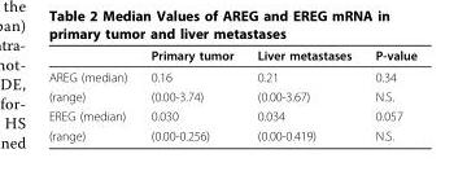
<table><thead><tr><td></td><td>Primary tumor</td><td>Liver metastases</td><td>P-value</td></tr></thead><tbody><tr><td>AREG (median)</td><td>0.16</td><td>0.21</td><td>0.34</td></tr><tr><td>(range)</td><td>(0.00-3.74)</td><td>(0.00-3.67)</td><td>N.S.</td></tr><tr><td>EREG (median)</td><td>0.030</td><td>0.034</td><td>0.057</td></tr><tr><td>(range)</td><td>(0.00-0.256)</td><td>(0.00-0.419)</td><td>N.S.</td></tr></tbody></table>